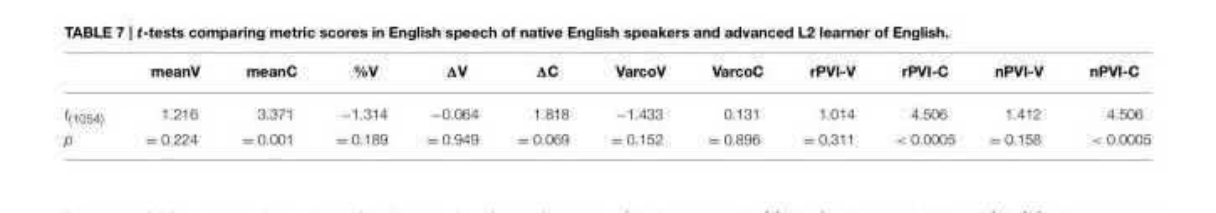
<table><thead><tr><td></td><td>meanV</td><td>meanC</td><td>%V</td><td>ΔV</td><td>ΔC</td><td>VarcoV</td><td>VarcoC</td><td>rPVI-V</td><td>rPVI-C</td><td>nPVI-V</td><td>nPVI-C</td></tr></thead><tbody><tr><td>t<sub>(1054)</sub></td><td>1.216</td><td>3.371</td><td>−1.314</td><td>−0.064</td><td>1.818</td><td>−1.433</td><td>0.131</td><td>1.014</td><td>4.506</td><td>1.412</td><td>4.506</td></tr><tr><td>p</td><td>= 0.224</td><td>= 0.001</td><td>= 0.189</td><td>= 0.949</td><td>= 0.069</td><td>= 0.152</td><td>= 0.896</td><td>= 0.311</td><td>&lt; 0.0005</td><td>= 0.158</td><td>&lt; 0.0005</td></tr></tbody></table>